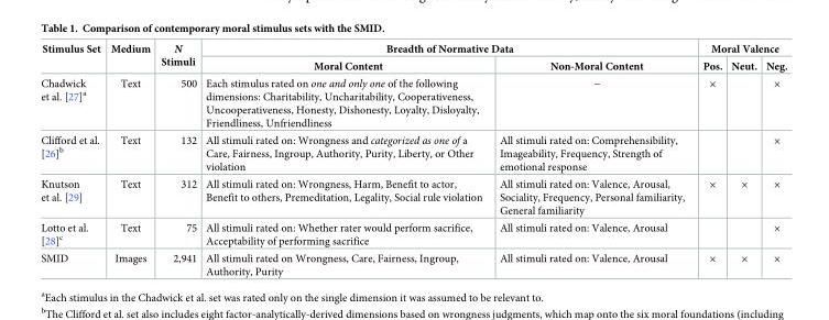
<table><thead><tr><td rowspan="2">Stimulus Set</td><td rowspan="2">Medium</td><td rowspan="2">N Stimuli</td><td colspan="2">Breadth of Normative Data</td><td colspan="3">Moral Valence</td></tr><tr><td>Moral Content</td><td>Non-Moral Content</td><td>Pos.</td><td>Neut.</td><td>Neg.</td></tr></thead><tbody><tr><td>Chadwick et al. [27]<sup>a</sup></td><td>Text</td><td>500</td><td>Each stimulus rated on one and only one of the following dimensions: Charitability, Uncharitability, Cooperativeness, Uncooperativeness, Honesty, Dishonesty, Loyalty, Disloyalty, Friendliness, Unfriendliness</td><td>−</td><td>×</td><td></td><td>×</td></tr><tr><td>Clifford et al. [26]<sup>b</sup></td><td>Text</td><td>132</td><td>All stimuli rated on: Wrongness and categorized as one of a Care, Fairness, Ingroup, Authority, Purity, Liberty, or Other violation</td><td>All stimuli rated on: Comprehensibility, Imageability, Frequency, Strength of emotional response</td><td></td><td></td><td>×</td></tr><tr><td>Knutson et al. [29]</td><td>Text</td><td>312</td><td>All stimuli rated on: Wrongness, Harm, Benefit to actor, Benefit to others, Premeditation, Legality, Social rule violation</td><td>All stimuli rated on: Valence, Arousal, Sociality, Frequency, Personal familiarity, General familiarity</td><td>×</td><td>×</td><td>×</td></tr><tr><td>Lotto et al. [28]<sup>c</sup></td><td>Text</td><td>75</td><td>All stimuli rated on: Whether rater would perform sacrifice, Acceptability of performing sacrifice</td><td>All stimuli rated on: Valence, Arousal</td><td></td><td></td><td>×</td></tr><tr><td>SMID</td><td>Images</td><td>2,941</td><td>All stimuli rated on Wrongness, Care, Fairness, Ingroup, Authority, Purity</td><td>All stimuli rated on: Valence, Arousal</td><td>×</td><td>×</td><td>×</td></tr></tbody></table>